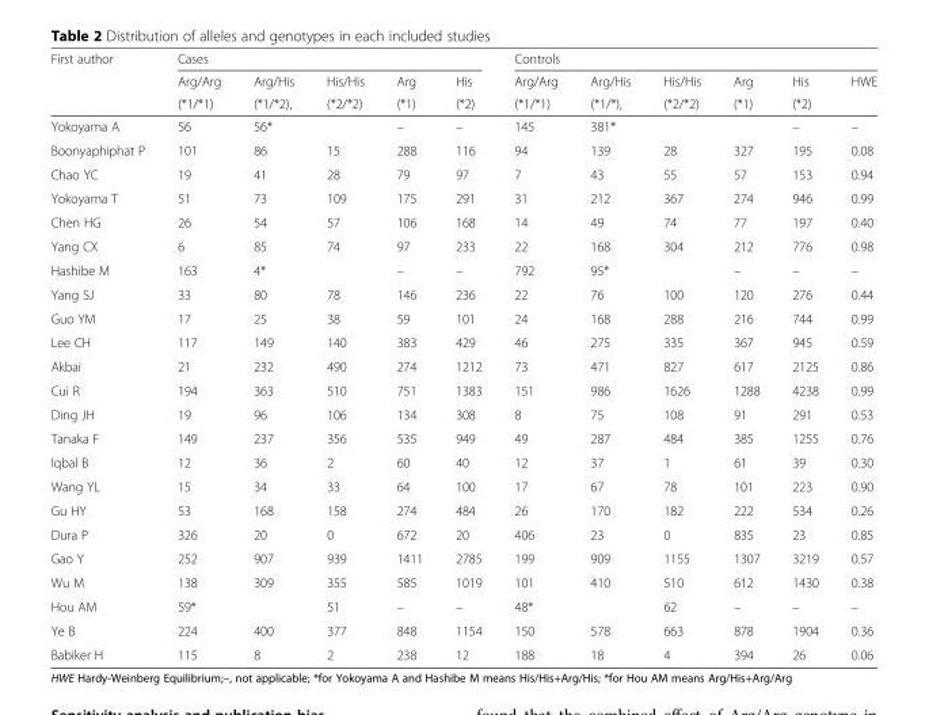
<table><thead><tr><td rowspan="3">First author</td><td colspan="5">Cases</td><td colspan="6">Controls</td></tr><tr><td rowspan="2">Arg/Arg (*1/*1)</td><td rowspan="2">Arg/His (*1/*2),</td><td rowspan="2">His/His (*2/*2)</td><td rowspan="2">Arg (*1)</td><td rowspan="2">His (*2)</td><td rowspan="2">Arg/Arg (*1/*1)</td><td rowspan="2">Arg/His (*1/*),</td><td rowspan="2">His/His (*2/*2)</td><td rowspan="2">Arg (*1)</td><td rowspan="2">His (*2)</td><td rowspan="2">HWE</td></tr><tr></tr></thead><tbody><tr><td>Yokoyama A</td><td>56</td><td>56*</td><td></td><td>–</td><td>–</td><td>145</td><td>381*</td><td></td><td></td><td>–</td><td>–</td></tr><tr><td>Boonyaphiphat P</td><td>101</td><td>86</td><td>15</td><td>288</td><td>116</td><td>94</td><td>139</td><td>28</td><td>327</td><td>195</td><td>0.08</td></tr><tr><td>Chao YC</td><td>19</td><td>41</td><td>28</td><td>79</td><td>97</td><td>7</td><td>43</td><td>55</td><td>57</td><td>153</td><td>0.94</td></tr><tr><td>Yokoyama T</td><td>51</td><td>73</td><td>109</td><td>175</td><td>291</td><td>31</td><td>212</td><td>367</td><td>274</td><td>946</td><td>0.99</td></tr><tr><td>Chen HG</td><td>26</td><td>54</td><td>57</td><td>106</td><td>168</td><td>14</td><td>49</td><td>74</td><td>77</td><td>197</td><td>0.40</td></tr><tr><td>Yang CX</td><td>6</td><td>85</td><td>74</td><td>97</td><td>233</td><td>22</td><td>168</td><td>304</td><td>212</td><td>776</td><td>0.98</td></tr><tr><td>Hashibe M</td><td>163</td><td>4*</td><td></td><td>–</td><td>–</td><td>792</td><td>95*</td><td></td><td>–</td><td>–</td><td>–</td></tr><tr><td>Yang SJ</td><td>33</td><td>80</td><td>78</td><td>146</td><td>236</td><td>22</td><td>76</td><td>100</td><td>120</td><td>276</td><td>0.44</td></tr><tr><td>Guo YM</td><td>17</td><td>25</td><td>38</td><td>59</td><td>101</td><td>24</td><td>168</td><td>288</td><td>216</td><td>744</td><td>0.99</td></tr><tr><td>Lee CH</td><td>117</td><td>149</td><td>140</td><td>383</td><td>429</td><td>46</td><td>275</td><td>335</td><td>367</td><td>945</td><td>0.59</td></tr><tr><td>Akbai</td><td>21</td><td>232</td><td>490</td><td>274</td><td>1212</td><td>73</td><td>471</td><td>827</td><td>617</td><td>2125</td><td>0.86</td></tr><tr><td>Cui R</td><td>194</td><td>363</td><td>510</td><td>751</td><td>1383</td><td>151</td><td>986</td><td>1626</td><td>1288</td><td>4238</td><td>0.99</td></tr><tr><td>Ding JH</td><td>19</td><td>96</td><td>106</td><td>134</td><td>308</td><td>8</td><td>75</td><td>108</td><td>91</td><td>291</td><td>0.53</td></tr><tr><td>Tanaka F</td><td>149</td><td>237</td><td>356</td><td>535</td><td>949</td><td>49</td><td>287</td><td>484</td><td>385</td><td>1255</td><td>0.76</td></tr><tr><td>Iqbal B</td><td>12</td><td>36</td><td>2</td><td>60</td><td>40</td><td>12</td><td>37</td><td>1</td><td>61</td><td>39</td><td>0.30</td></tr><tr><td>Wang YL</td><td>15</td><td>34</td><td>33</td><td>64</td><td>100</td><td>17</td><td>67</td><td>78</td><td>101</td><td>223</td><td>0.90</td></tr><tr><td>Gu HY</td><td>53</td><td>168</td><td>158</td><td>274</td><td>484</td><td>26</td><td>170</td><td>182</td><td>222</td><td>534</td><td>0.26</td></tr><tr><td>Dura P</td><td>326</td><td>20</td><td>0</td><td>672</td><td>20</td><td>406</td><td>23</td><td>0</td><td>835</td><td>23</td><td>0.85</td></tr><tr><td>Gao Y</td><td>252</td><td>907</td><td>939</td><td>1411</td><td>2785</td><td>199</td><td>909</td><td>1155</td><td>1307</td><td>3219</td><td>0.57</td></tr><tr><td>Wu M</td><td>138</td><td>309</td><td>355</td><td>585</td><td>1019</td><td>101</td><td>410</td><td>510</td><td>612</td><td>1430</td><td>0.38</td></tr><tr><td>Hou AM</td><td>59*</td><td></td><td>51</td><td>–</td><td>–</td><td>48*</td><td></td><td>62</td><td>–</td><td>–</td><td>–</td></tr><tr><td>Ye B</td><td>224</td><td>400</td><td>377</td><td>848</td><td>1154</td><td>150</td><td>578</td><td>663</td><td>878</td><td>1904</td><td>0.36</td></tr><tr><td>Babiker H</td><td>115</td><td>8</td><td>2</td><td>238</td><td>12</td><td>188</td><td>18</td><td>4</td><td>394</td><td>26</td><td>0.06</td></tr></tbody></table>